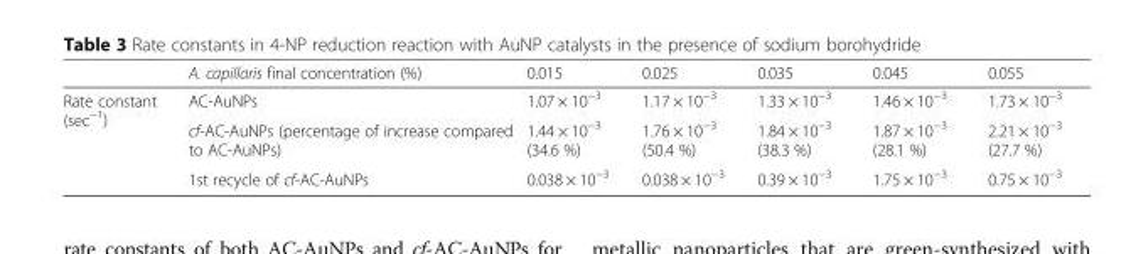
<table><thead><tr><td></td><td>A. capillaris final concentration (%)</td><td>0.015</td><td>0.025</td><td>0.035</td><td>0.045</td><td>0.055</td></tr></thead><tbody><tr><td rowspan="3">Rate constant (sec<sup>−1</sup>)</td><td>AC-AuNPs</td><td>1.07 × 10<sup>−3</sup></td><td>1.17 × 10<sup>−3</sup></td><td>1.33 × 10<sup>−3</sup></td><td>1.46 × 10<sup>−3</sup></td><td>1.73 × 10<sup>−3</sup></td></tr><tr><td>cf-AC-AuNPs (percentage of increase compared to AC-AuNPs)</td><td>1.44 × 10<sup>−3</sup> (34.6 %)</td><td>1.76 × 10<sup>−3</sup> (50.4 %)</td><td>1.84 × 10<sup>−3</sup> (38.3 %)</td><td>1.87 × 10<sup>−3</sup> (28.1 %)</td><td>2.21 × 10<sup>−3</sup> (27.7 %)</td></tr><tr><td>1st recycle of cf-AC-AuNPs</td><td>0.038 × 10<sup>−3</sup></td><td>0.038 × 10<sup>−3</sup></td><td>0.39 × 10<sup>−3</sup></td><td>1.75 × 10<sup>−3</sup></td><td>0.75 × 10<sup>−3</sup></td></tr></tbody></table>